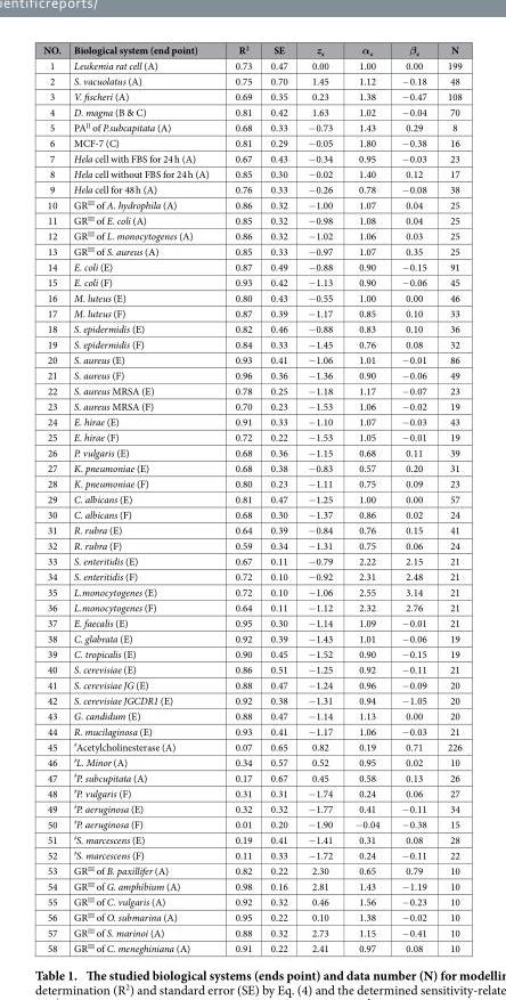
<table><thead><tr><td>NO.</td><td>Biological system (end point)</td><td>R<sup>2</sup></td><td>SE</td><td>z<sub>x</sub></td><td>α<sub>x</sub></td><td>β<sub>x</sub></td><td>N</td></tr></thead><tbody><tr><td>1</td><td>Leukemia rat cell (A)</td><td>0.73</td><td>0.47</td><td>0.00</td><td>1.00</td><td>0.00</td><td>199</td></tr><tr><td>2</td><td>S. vacuolatus (A)</td><td>0.75</td><td>0.70</td><td>1.45</td><td>1.12</td><td>− 0.18</td><td>48</td></tr><tr><td>3</td><td>V. fischeri (A)</td><td>0.69</td><td>0.35</td><td>0.23</td><td>1.38</td><td>− 0.47</td><td>108</td></tr><tr><td>4</td><td>D. magna (B &amp; C)</td><td>0.81</td><td>0.42</td><td>1.63</td><td>1.02</td><td>− 0.04</td><td>70</td></tr><tr><td>5</td><td>PA<sup>II</sup> of P.subcapitata (A)</td><td>0.68</td><td>0.33</td><td>− 0.73</td><td>1.43</td><td>0.29</td><td>8</td></tr><tr><td>6</td><td>MCF-7 (C)</td><td>0.81</td><td>0.29</td><td>− 0.05</td><td>1.80</td><td>− 0.38</td><td>16</td></tr><tr><td>7</td><td>Hela cell with FBS for 24 h (A)</td><td>0.67</td><td>0.43</td><td>− 0.34</td><td>0.95</td><td>− 0.03</td><td>23</td></tr><tr><td>8</td><td>Hela cell without FBS for 24 h (A)</td><td>0.85</td><td>0.30</td><td>− 0.02</td><td>1.40</td><td>0.12</td><td>17</td></tr><tr><td>9</td><td>Hela cell for 48 h (A)</td><td>0.76</td><td>0.33</td><td>− 0.26</td><td>0.78</td><td>− 0.08</td><td>38</td></tr><tr><td>10</td><td>GR<sup>III</sup> of A. hydrophila (A)</td><td>0.86</td><td>0.32</td><td>− 1.00</td><td>1.07</td><td>0.04</td><td>25</td></tr><tr><td>11</td><td>GR<sup>III</sup> of E. coli (A)</td><td>0.85</td><td>0.32</td><td>− 0.98</td><td>1.08</td><td>0.04</td><td>25</td></tr><tr><td>12</td><td>GR<sup>III</sup> of L. monocytogenes (A)</td><td>0.86</td><td>0.32</td><td>− 1.02</td><td>1.06</td><td>0.03</td><td>25</td></tr><tr><td>13</td><td>GR<sup>III</sup> of S. aureus (A)</td><td>0.85</td><td>0.33</td><td>− 0.97</td><td>1.07</td><td>0.35</td><td>25</td></tr><tr><td>14</td><td>E. coli (E)</td><td>0.87</td><td>0.49</td><td>− 0.88</td><td>0.90</td><td>− 0.15</td><td>91</td></tr><tr><td>15</td><td>E. coli (F)</td><td>0.93</td><td>0.42</td><td>− 1.13</td><td>0.90</td><td>− 0.06</td><td>45</td></tr><tr><td>16</td><td>M. luteus (E)</td><td>0.80</td><td>0.43</td><td>− 0.55</td><td>1.00</td><td>0.00</td><td>46</td></tr><tr><td>17</td><td>M. luteus (F)</td><td>0.87</td><td>0.39</td><td>− 1.17</td><td>0.85</td><td>0.10</td><td>33</td></tr><tr><td>18</td><td>S. epidermidis (E)</td><td>0.82</td><td>0.46</td><td>− 0.88</td><td>0.83</td><td>0.10</td><td>36</td></tr><tr><td>19</td><td>S. epidermidis (F)</td><td>0.84</td><td>0.33</td><td>− 1.45</td><td>0.76</td><td>0.08</td><td>32</td></tr><tr><td>20</td><td>S. aureus (E)</td><td>0.93</td><td>0.41</td><td>− 1.06</td><td>1.01</td><td>− 0.01</td><td>86</td></tr><tr><td>21</td><td>S. aureus (F)</td><td>0.96</td><td>0.36</td><td>− 1.36</td><td>0.90</td><td>− 0.06</td><td>49</td></tr><tr><td>22</td><td>S. aureus MRSA (E)</td><td>0.78</td><td>0.25</td><td>− 1.18</td><td>1.17</td><td>− 0.07</td><td>23</td></tr><tr><td>23</td><td>S. aureus MRSA (F)</td><td>0.70</td><td>0.23</td><td>− 1.53</td><td>1.06</td><td>− 0.02</td><td>19</td></tr><tr><td>24</td><td>E. hirae (E)</td><td>0.91</td><td>0.33</td><td>− 1.10</td><td>1.07</td><td>− 0.03</td><td>43</td></tr><tr><td>25</td><td>E. hirae (F)</td><td>0.72</td><td>0.22</td><td>− 1.53</td><td>1.05</td><td>− 0.01</td><td>19</td></tr><tr><td>26</td><td>P. vulgaris (E)</td><td>0.68</td><td>0.36</td><td>− 1.15</td><td>0.68</td><td>0.11</td><td>39</td></tr><tr><td>27</td><td>K. pneumoniae (E)</td><td>0.68</td><td>0.38</td><td>− 0.83</td><td>0.57</td><td>0.20</td><td>31</td></tr><tr><td>28</td><td>K. pneumoniae (F)</td><td>0.80</td><td>0.23</td><td>− 1.11</td><td>0.75</td><td>0.09</td><td>23</td></tr><tr><td>29</td><td>C. albicans (E)</td><td>0.81</td><td>0.47</td><td>− 1.25</td><td>1.00</td><td>0.00</td><td>57</td></tr><tr><td>30</td><td>C. albicans (F)</td><td>0.68</td><td>0.30</td><td>− 1.37</td><td>0.86</td><td>0.02</td><td>24</td></tr><tr><td>31</td><td>R. rubra (E)</td><td>0.64</td><td>0.39</td><td>− 0.84</td><td>0.76</td><td>0.15</td><td>41</td></tr><tr><td>32</td><td>R. rubra (F)</td><td>0.59</td><td>0.34</td><td>− 1.31</td><td>0.75</td><td>0.06</td><td>24</td></tr><tr><td>33</td><td>S. enteritidis (E)</td><td>0.67</td><td>0.11</td><td>− 0.79</td><td>2.22</td><td>2.15</td><td>21</td></tr><tr><td>34</td><td>S. enteritidis (F)</td><td>0.72</td><td>0.10</td><td>− 0.92</td><td>2.31</td><td>2.48</td><td>21</td></tr><tr><td>35</td><td>L.monocytogenes (E)</td><td>0.72</td><td>0.10</td><td>− 1.06</td><td>2.55</td><td>3.14</td><td>21</td></tr><tr><td>36</td><td>L.monocytogenes (F)</td><td>0.64</td><td>0.11</td><td>− 1.12</td><td>2.32</td><td>2.76</td><td>21</td></tr><tr><td>37</td><td>E. faecalis (E)</td><td>0.95</td><td>0.30</td><td>− 1.14</td><td>1.09</td><td>− 0.01</td><td>21</td></tr><tr><td>38</td><td>C. glabrata (E)</td><td>0.92</td><td>0.39</td><td>− 1.43</td><td>1.01</td><td>− 0.06</td><td>19</td></tr><tr><td>39</td><td>C. tropicalis (E)</td><td>0.90</td><td>0.45</td><td>− 1.52</td><td>0.90</td><td>− 0.15</td><td>19</td></tr><tr><td>40</td><td>S. cerevisiae (E)</td><td>0.86</td><td>0.51</td><td>− 1.25</td><td>0.92</td><td>− 0.11</td><td>21</td></tr><tr><td>41</td><td>S. cerevisiae JG (E)</td><td>0.88</td><td>0.47</td><td>− 1.24</td><td>0.96</td><td>− 0.09</td><td>20</td></tr><tr><td>42</td><td>S. cerevisiae JGCDR1 (E)</td><td>0.92</td><td>0.38</td><td>− 1.31</td><td>0.94</td><td>− 1.05</td><td>20</td></tr><tr><td>43</td><td>G. candidum (E)</td><td>0.88</td><td>0.47</td><td>− 1.14</td><td>1.13</td><td>0.00</td><td>20</td></tr><tr><td>44</td><td>R. mucilaginosa (E)</td><td>0.93</td><td>0.41</td><td>− 1.17</td><td>1.06</td><td>− 0.03</td><td>21</td></tr><tr><td>45</td><td>ǂAcetylcholinesterase (A)</td><td>0.07</td><td>0.65</td><td>0.82</td><td>0.19</td><td>0.71</td><td>226</td></tr><tr><td>46</td><td>ǂL. Minor (A)</td><td>0.34</td><td>0.57</td><td>0.52</td><td>0.95</td><td>0.02</td><td>10</td></tr><tr><td>47</td><td>ǂP. subcupitata (A)</td><td>0.17</td><td>0.67</td><td>0.45</td><td>0.58</td><td>0.13</td><td>26</td></tr><tr><td>48</td><td>ǂP. vulgaris (F)</td><td>0.31</td><td>0.31</td><td>− 1.74</td><td>0.24</td><td>0.06</td><td>27</td></tr><tr><td>49</td><td>ǂP. aeruginosa (E)</td><td>0.32</td><td>0.32</td><td>− 1.77</td><td>0.41</td><td>− 0.11</td><td>34</td></tr><tr><td>50</td><td>ǂP. aeruginosa (F)</td><td>0.01</td><td>0.20</td><td>− 1.90</td><td>− 0.04</td><td>− 0.38</td><td>15</td></tr><tr><td>51</td><td>ǂS. marcescens (E)</td><td>0.19</td><td>0.41</td><td>− 1.41</td><td>0.31</td><td>0.08</td><td>28</td></tr><tr><td>52</td><td>ǂS. marcescens (F)</td><td>0.11</td><td>0.33</td><td>− 1.72</td><td>0.24</td><td>− 0.11</td><td>22</td></tr><tr><td>53</td><td>GR<sup>III</sup> of B. paxillifer (A)</td><td>0.82</td><td>0.22</td><td>2.30</td><td>0.65</td><td>0.79</td><td>10</td></tr><tr><td>54</td><td>GR<sup>III</sup> of G. amphibium (A)</td><td>0.98</td><td>0.16</td><td>2.81</td><td>1.43</td><td>− 1.19</td><td>10</td></tr><tr><td>55</td><td>GR<sup>III</sup> of C. vulgaris (A)</td><td>0.92</td><td>0.32</td><td>0.46</td><td>1.56</td><td>− 0.23</td><td>10</td></tr><tr><td>56</td><td>GR<sup>III</sup> of O. submarina (A)</td><td>0.95</td><td>0.22</td><td>0.10</td><td>1.38</td><td>− 0.02</td><td>10</td></tr><tr><td>57</td><td>GR<sup>III</sup> of S. marinoi (A)</td><td>0.88</td><td>0.32</td><td>2.73</td><td>1.15</td><td>− 0.41</td><td>10</td></tr><tr><td>58</td><td>GR<sup>III</sup> of C. meneghiniana (A)</td><td>0.91</td><td>0.22</td><td>2.41</td><td>0.97</td><td>0.08</td><td>10</td></tr></tbody></table>